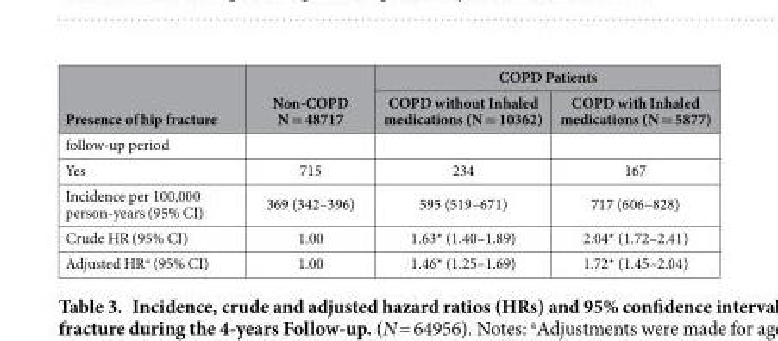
<table><thead><tr><td rowspan="2">Presence of hip fracture</td><td rowspan="2">Non-COPD N = 48717</td><td colspan="2">COPD Patients</td></tr><tr><td>COPD without Inhaled medications (N = 10362)</td><td>COPD with Inhaled medications (N = 5877)</td></tr></thead><tbody><tr><td colspan="4">follow-up period</td></tr><tr><td>Yes</td><td>715</td><td>234</td><td>167</td></tr><tr><td>Incidence per 100,000 person-years (95% CI)</td><td>369 (342–396)</td><td>595 (519–671)</td><td>717 (606–828)</td></tr><tr><td>Crude HR (95% CI)</td><td>1.00</td><td>1.63* (1.40–1.89)</td><td>2.04* (1.72–2.41)</td></tr><tr><td>Adjusted HR<sup>a</sup> (95% CI)</td><td>1.00</td><td>1.46* (1.25–1.69)</td><td>1.72* (1.45–2.04)</td></tr></tbody></table>